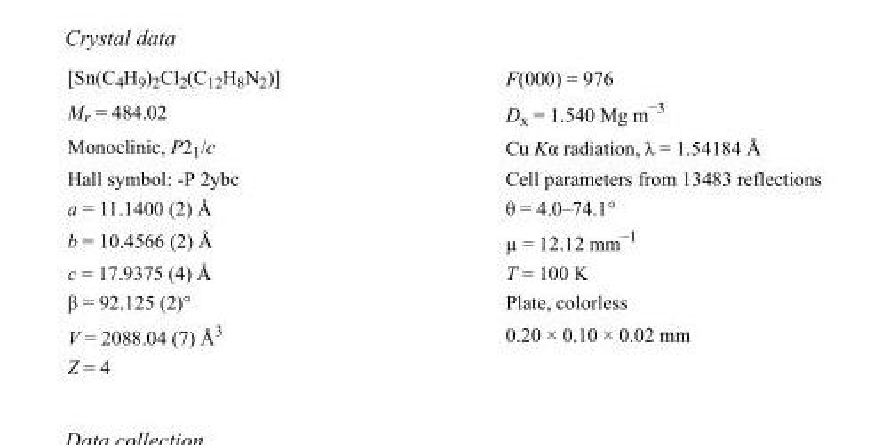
<table><tbody><tr><td>[Sn(C<sub>4</sub>H<sub>9</sub>)<sub>2</sub>Cl<sub>2</sub>(C<sub>12</sub>H<sub>8</sub>N<sub>2</sub>)]</td><td>F(000) = 976</td></tr><tr><td>M<sub>r</sub> = 484.02</td><td>D<sub>x</sub> = 1.540 Mg m<sup>−3</sup></td></tr><tr><td>Monoclinic, P2<sub>1</sub>/c</td><td>Cu Kα radiation, λ = 1.54184 Å</td></tr><tr><td>Hall symbol: -P 2ybc</td><td>Cell parameters from 13483 reflections</td></tr><tr><td>a = 11.1400 (2) Å</td><td>θ = 4.0–74.1°</td></tr><tr><td>b = 10.4566 (2) Å</td><td>µ = 12.12 mm<sup>−1</sup></td></tr><tr><td>c = 17.9375 (4) Å</td><td>T = 100 K</td></tr><tr><td>β = 92.125 (2)°</td><td>Plate, colorless</td></tr><tr><td>V = 2088.04 (7) Å<sup>3</sup></td><td>0.20 × 0.10 × 0.02 mm</td></tr><tr><td>Z = 4</td><td></td></tr></tbody></table>